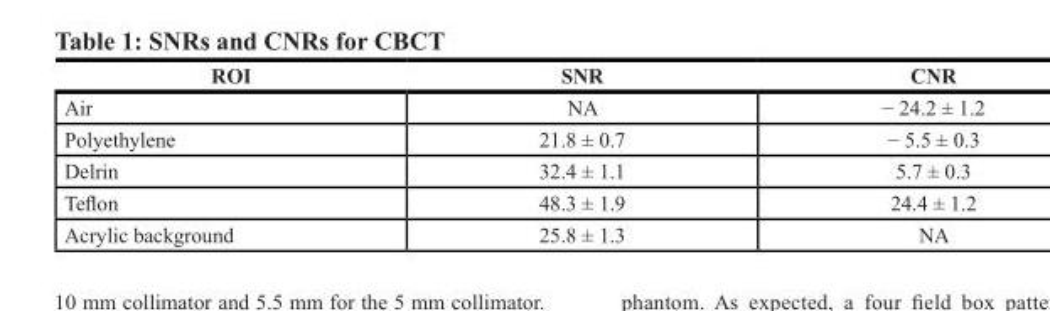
<table><thead><tr><td>ROI</td><td>SNR</td><td>CNR</td></tr></thead><tbody><tr><td>Air</td><td>NA</td><td>− 24.2 ± 1.2</td></tr><tr><td>Polyethylene</td><td>21.8 ± 0.7</td><td>− 5.5 ± 0.3</td></tr><tr><td>Delrin</td><td>32.4 ± 1.1</td><td>5.7 ± 0.3</td></tr><tr><td>Teflon</td><td>48.3 ± 1.9</td><td>24.4 ± 1.2</td></tr><tr><td>Acrylic background</td><td>25.8 ± 1.3</td><td>NA</td></tr></tbody></table>